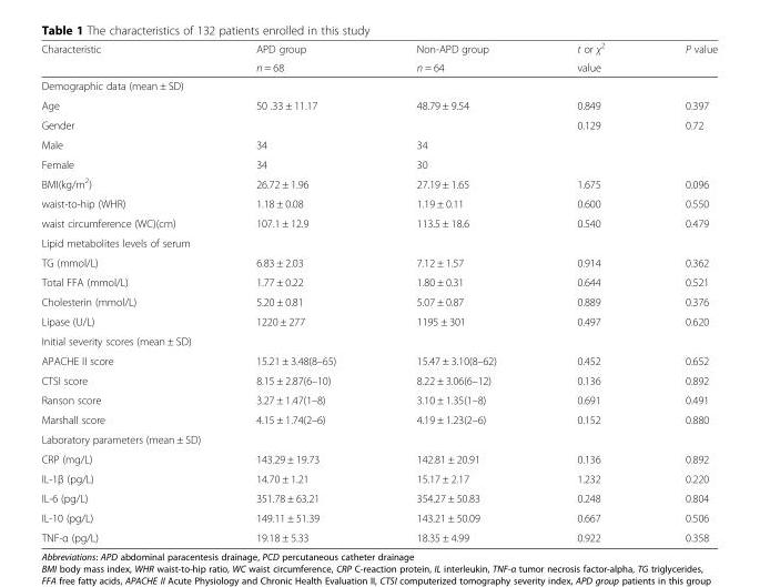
<table><thead><tr><td rowspan="2">Characteristic</td><td rowspan="2">APD group n = 68</td><td rowspan="2">Non-APD group n = 64</td><td rowspan="2">t or χ<sup>2</sup> value</td><td rowspan="2">P value</td></tr><tr></tr></thead><tbody><tr><td colspan="5">Demographic data (mean ± SD)</td></tr><tr><td>Age</td><td>50 .33 ± 11.17</td><td>48.79 ± 9.54</td><td>0.849</td><td>0.397</td></tr><tr><td>Gender</td><td></td><td></td><td>0.129</td><td>0.72</td></tr><tr><td>Male</td><td>34</td><td>34</td><td></td><td></td></tr><tr><td>Female</td><td>34</td><td>30</td><td></td><td></td></tr><tr><td>BMI(kg/m<sup>2</sup>)</td><td>26.72 ± 1.96</td><td>27.19 ± 1.65</td><td>1.675</td><td>0.096</td></tr><tr><td>waist-to-hip (WHR)</td><td>1.18 ± 0.08</td><td>1.19 ± 0.11</td><td>0.600</td><td>0.550</td></tr><tr><td>waist circumference (WC)(cm)</td><td>107.1 ± 12.9</td><td>113.5 ± 18.6</td><td>0.540</td><td>0.479</td></tr><tr><td colspan="5">Lipid metabolites levels of serum</td></tr><tr><td>TG (mmol/L)</td><td>6.83 ± 2.03</td><td>7.12 ± 1.57</td><td>0.914</td><td>0.362</td></tr><tr><td>Total FFA (mmol/L)</td><td>1.77 ± 0.22</td><td>1.80 ± 0.31</td><td>0.644</td><td>0.521</td></tr><tr><td>Cholesterin (mmol/L)</td><td>5.20 ± 0.81</td><td>5.07 ± 0.87</td><td>0.889</td><td>0.376</td></tr><tr><td>Lipase (U/L)</td><td>1220 ± 277</td><td>1195 ± 301</td><td>0.497</td><td>0.620</td></tr><tr><td colspan="5">Initial severity scores (mean ± SD)</td></tr><tr><td>APACHE II score</td><td>15.21 ± 3.48(8–65)</td><td>15.47 ± 3.10(8–62)</td><td>0.452</td><td>0.652</td></tr><tr><td>CTSI score</td><td>8.15 ± 2.87(6–10)</td><td>8.22 ± 3.06(6–12)</td><td>0.136</td><td>0.892</td></tr><tr><td>Ranson score</td><td>3.27 ± 1.47(1–8)</td><td>3.10 ± 1.35(1–8)</td><td>0.691</td><td>0.491</td></tr><tr><td>Marshall score</td><td>4.15 ± 1.74(2–6)</td><td>4.19 ± 1.23(2–6)</td><td>0.152</td><td>0.880</td></tr><tr><td colspan="5">Laboratory parameters (mean ± SD)</td></tr><tr><td>CRP (mg/L)</td><td>143.29 ± 19.73</td><td>142.81 ± 20.91</td><td>0.136</td><td>0.892</td></tr><tr><td>IL-1β (pg/L)</td><td>14.70 ± 1.21</td><td>15.17 ± 2.17</td><td>1.232</td><td>0.220</td></tr><tr><td>IL-6 (pg/L)</td><td>351.78 ± 63.21</td><td>354.27 ± 50.83</td><td>0.248</td><td>0.804</td></tr><tr><td>IL-10 (pg/L)</td><td>149.11 ± 51.39</td><td>143.21 ± 50.09</td><td>0.667</td><td>0.506</td></tr><tr><td>TNF-α (pg/L)</td><td>19.18 ± 5.33</td><td>18.35 ± 4.99</td><td>0.922</td><td>0.358</td></tr></tbody></table>